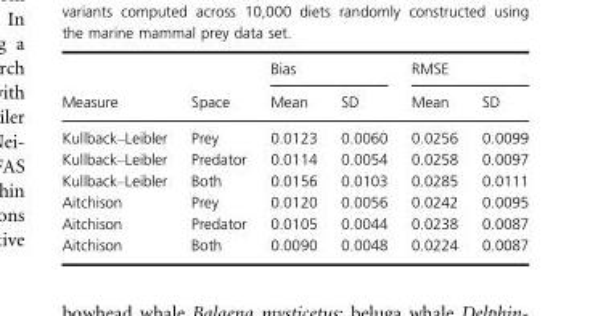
<table><thead><tr><td rowspan="2">Measure</td><td rowspan="2">Space</td><td colspan="2">Bias</td><td colspan="2">RMSE</td></tr><tr><td>Mean</td><td>SD</td><td>Mean</td><td>SD</td></tr></thead><tbody><tr><td>Kullback–Leibler</td><td>Prey</td><td>0.0123</td><td>0.0060</td><td>0.0256</td><td>0.0099</td></tr><tr><td>Kullback–Leibler</td><td>Predator</td><td>0.0114</td><td>0.0054</td><td>0.0258</td><td>0.0097</td></tr><tr><td>Kullback–Leibler</td><td>Both</td><td>0.0156</td><td>0.0103</td><td>0.0285</td><td>0.0111</td></tr><tr><td>Aitchison</td><td>Prey</td><td>0.0120</td><td>0.0056</td><td>0.0242</td><td>0.0095</td></tr><tr><td>Aitchison</td><td>Predator</td><td>0.0105</td><td>0.0044</td><td>0.0238</td><td>0.0087</td></tr><tr><td>Aitchison</td><td>Both</td><td>0.0090</td><td>0.0048</td><td>0.0224</td><td>0.0087</td></tr></tbody></table>